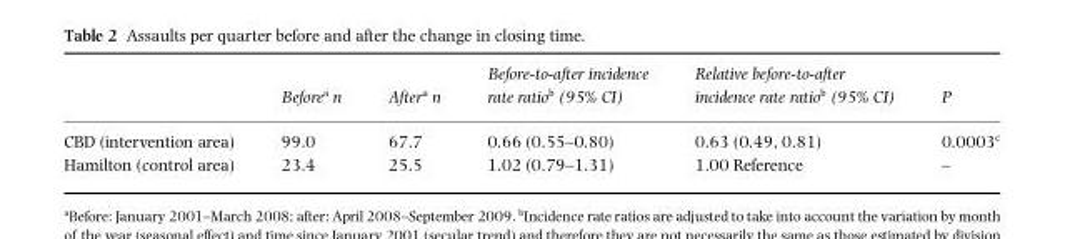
<table><thead><tr><td></td><td>Before<sup>a</sup> n</td><td>After<sup>a</sup> n</td><td>Before-to-after incidence rate ratio<sup>b</sup> (95% CI)</td><td>Relative before-to-after incidence rate ratio<sup>b</sup> (95% CI)</td><td>P</td></tr></thead><tbody><tr><td>CBD (intervention area)</td><td>99.0</td><td>67.7</td><td>0.66 (0.55–0.80)</td><td>0.63 (0.49, 0.81)</td><td>0.0003<sup>c</sup></td></tr><tr><td>Hamilton (control area)</td><td>23.4</td><td>25.5</td><td>1.02 (0.79–1.31)</td><td>1.00 Reference</td><td>–</td></tr></tbody></table>